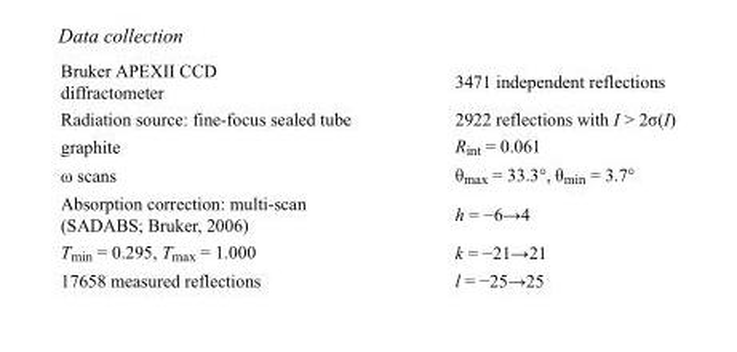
<table><tbody><tr><td>Bruker APEXII CCD diffractometer</td><td>3471 independent reflections</td></tr><tr><td>Radiation source: fine-focus sealed tube</td><td>2922 reflections with I &gt; 2σ(I)</td></tr><tr><td>graphite</td><td>R<sub>int</sub> = 0.061</td></tr><tr><td>ω scans</td><td>θ<sub>max</sub> = 33.3°, θ<sub>min</sub> = 3.7°</td></tr><tr><td>Absorption correction: multi-scan (SADABS; Bruker, 2006)</td><td>h = −6→4</td></tr><tr><td>T<sub>min</sub> = 0.295, T<sub>max</sub> = 1.000</td><td>k = −21→21</td></tr><tr><td>17658 measured reflections</td><td>l = −25→25</td></tr></tbody></table>